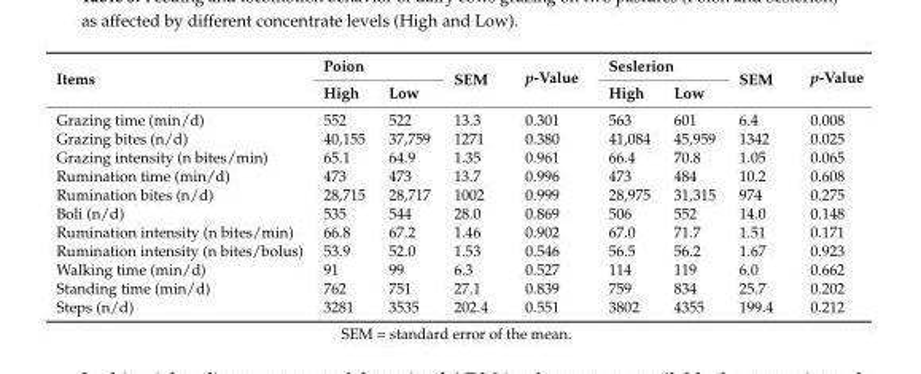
<table><thead><tr><td rowspan="2">Items</td><td colspan="2">Poion</td><td rowspan="2">SEM</td><td rowspan="2">p-Value</td><td colspan="2">Seslerion</td><td rowspan="2">SEM</td><td rowspan="2">p-Value</td></tr><tr><td>High</td><td>Low</td><td>High</td><td>Low</td></tr></thead><tbody><tr><td>Grazing time (min/d)</td><td>552</td><td>522</td><td>13.3</td><td>0.301</td><td>563</td><td>601</td><td>6.4</td><td>0.008</td></tr><tr><td>Grazing bites (n/d)</td><td>40,155</td><td>37,759</td><td>1271</td><td>0.380</td><td>41,084</td><td>45,959</td><td>1342</td><td>0.025</td></tr><tr><td>Grazing intensity (n bites/min)</td><td>65.1</td><td>64.9</td><td>1.35</td><td>0.961</td><td>66.4</td><td>70.8</td><td>1.05</td><td>0.065</td></tr><tr><td>Rumination time (min/d)</td><td>473</td><td>473</td><td>13.7</td><td>0.996</td><td>473</td><td>484</td><td>10.2</td><td>0.608</td></tr><tr><td>Rumination bites (n/d)</td><td>28,715</td><td>28,717</td><td>1002</td><td>0.999</td><td>28,975</td><td>31,315</td><td>974</td><td>0.275</td></tr><tr><td>Boli (n/d)</td><td>535</td><td>544</td><td>28.0</td><td>0.869</td><td>506</td><td>552</td><td>14.0</td><td>0.148</td></tr><tr><td>Rumination intensity (n bites/min)</td><td>66.8</td><td>67.2</td><td>1.46</td><td>0.902</td><td>67.0</td><td>71.7</td><td>1.51</td><td>0.171</td></tr><tr><td>Rumination intensity (n bites/bolus)</td><td>53.9</td><td>52.0</td><td>1.53</td><td>0.546</td><td>56.5</td><td>56.2</td><td>1.67</td><td>0.923</td></tr><tr><td>Walking time (min/d)</td><td>91</td><td>99</td><td>6.3</td><td>0.527</td><td>114</td><td>119</td><td>6.0</td><td>0.662</td></tr><tr><td>Standing time (min/d)</td><td>762</td><td>751</td><td>27.1</td><td>0.839</td><td>759</td><td>834</td><td>25.7</td><td>0.202</td></tr><tr><td>Steps (n/d)</td><td>3281</td><td>3535</td><td>202.4</td><td>0.551</td><td>3802</td><td>4355</td><td>199.4</td><td>0.212</td></tr></tbody></table>